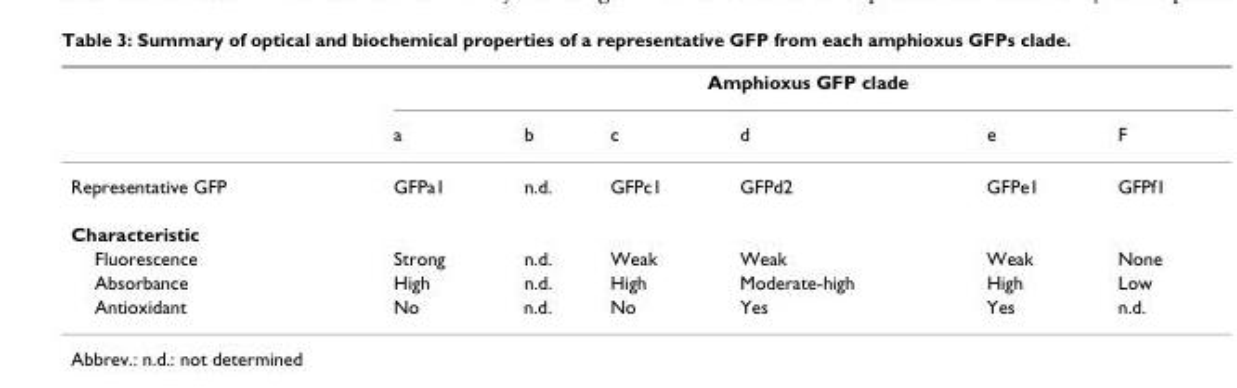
<table><thead><tr><td rowspan="2"></td><td colspan="6">Amphioxus GFP clade</td></tr><tr><td>a</td><td>b</td><td>c</td><td>d</td><td>e</td><td>F</td></tr></thead><tbody><tr><td>Representative GFP</td><td>GFPa1</td><td>n.d.</td><td>GFPc1</td><td>GFPd2</td><td>GFPe1</td><td>GFPf1</td></tr><tr><td colspan="7">Characteristic</td></tr><tr><td>Fluorescence</td><td>Strong</td><td>n.d.</td><td>Weak</td><td>Weak</td><td>Weak</td><td>None</td></tr><tr><td>Absorbance</td><td>High</td><td>n.d.</td><td>High</td><td>Moderate-high</td><td>High</td><td>Low</td></tr><tr><td>Antioxidant</td><td>No</td><td>n.d.</td><td>No</td><td>Yes</td><td>Yes</td><td>n.d.</td></tr></tbody></table>